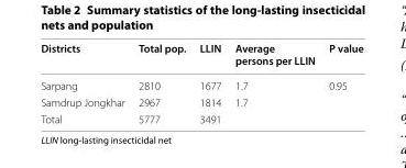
<table><thead><tr><td>Districts</td><td>Total pop.</td><td>LLIN</td><td>Average persons per LLIN</td><td>P value</td></tr></thead><tbody><tr><td>Sarpang</td><td>2810</td><td>1677</td><td>1.7</td><td>0.95</td></tr><tr><td>Samdrup Jongkhar</td><td>2967</td><td>1814</td><td>1.7</td><td></td></tr><tr><td>Total</td><td>5777</td><td>3491</td><td></td><td></td></tr></tbody></table>